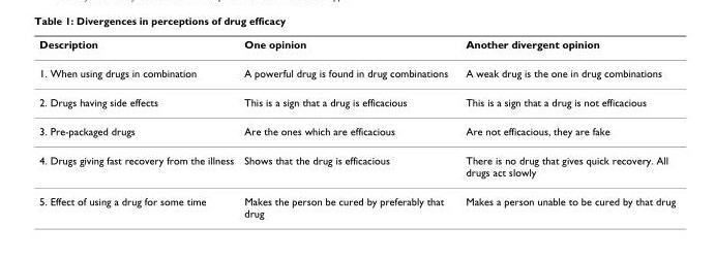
<table><thead><tr><td>Description</td><td>One opinion</td><td>Another divergent opinion</td></tr></thead><tbody><tr><td>1. When using drugs in combination</td><td>A powerful drug is found in drug combinations</td><td>A weak drug is the one in drug combinations</td></tr><tr><td>2. Drugs having side effects</td><td>This is a sign that a drug is efficacious</td><td>This is a sign that a drug is not efficacious</td></tr><tr><td>3. Pre-packaged drugs</td><td>Are the ones which are efficacious</td><td>Are not efficacious, they are fake</td></tr><tr><td>4. Drugs giving fast recovery from the illness</td><td>Shows that the drug is efficacious</td><td>There is no drug that gives quick recovery. All drugs act slowly</td></tr><tr><td>5. Effect of using a drug for some time</td><td>Makes the person be cured by preferably that drug</td><td>Makes a person unable to be cured by that drug</td></tr></tbody></table>